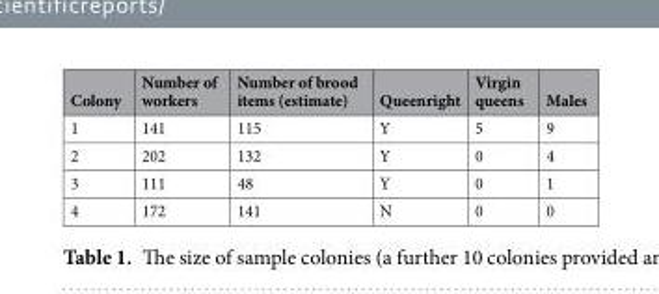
<table><thead><tr><td>Colony</td><td>Number of workers</td><td>Number of brood items (estimate)</td><td>Queenright</td><td>Virgin queens</td><td>Males</td></tr></thead><tbody><tr><td>1</td><td>141</td><td>115</td><td>Y</td><td>5</td><td>9</td></tr><tr><td>2</td><td>202</td><td>132</td><td>Y</td><td>0</td><td>4</td></tr><tr><td>3</td><td>111</td><td>48</td><td>Y</td><td>0</td><td>1</td></tr><tr><td>4</td><td>172</td><td>141</td><td>N</td><td>0</td><td>0</td></tr></tbody></table>